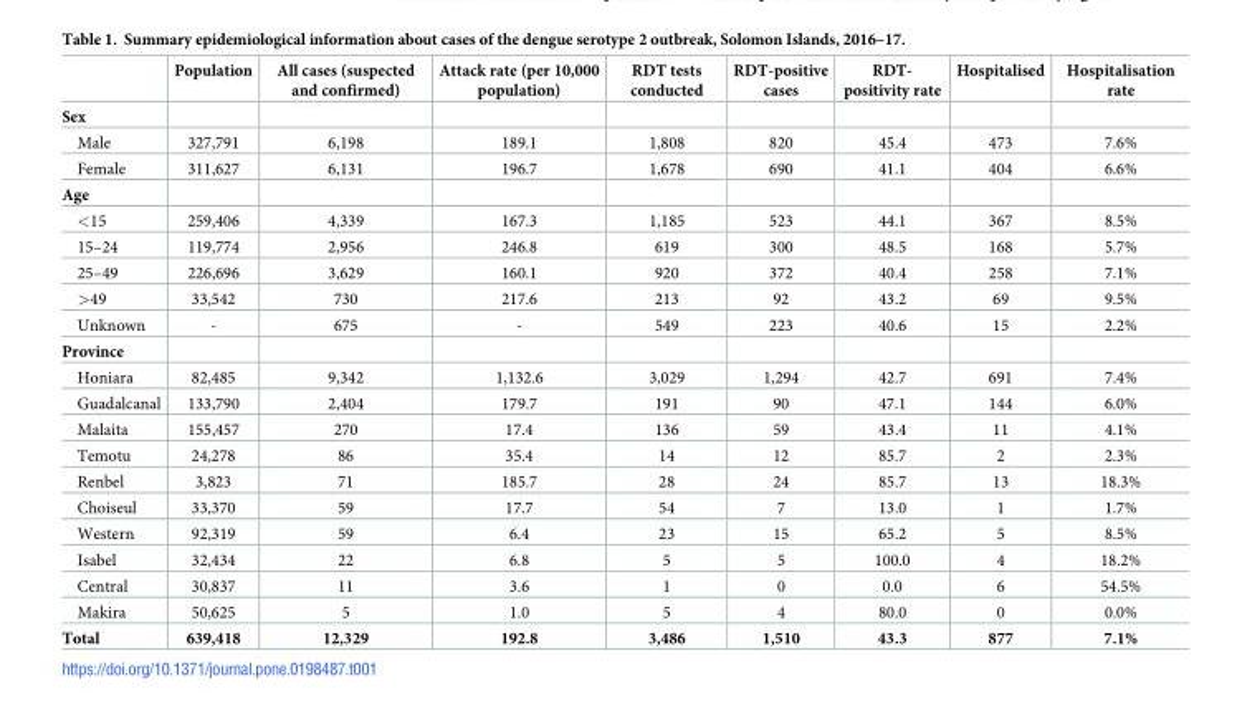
<table><thead><tr><td></td><td>Population</td><td>All cases (suspected and confirmed)</td><td>Attack rate (per 10,000 population)</td><td>RDT tests conducted</td><td>RDT-positive cases</td><td>RDT- positivity rate</td><td>Hospitalised</td><td>Hospitalisation rate</td></tr></thead><tbody><tr><td colspan="9">Sex</td></tr><tr><td>Male</td><td>327,791</td><td>6,198</td><td>189.1</td><td>1,808</td><td>820</td><td>45.4</td><td>473</td><td>7.6%</td></tr><tr><td>Female</td><td>311,627</td><td>6,131</td><td>196.7</td><td>1,678</td><td>690</td><td>41.1</td><td>404</td><td>6.6%</td></tr><tr><td colspan="9">Age</td></tr><tr><td>&lt;15</td><td>259,406</td><td>4,339</td><td>167.3</td><td>1,185</td><td>523</td><td>44.1</td><td>367</td><td>8.5%</td></tr><tr><td>15–24</td><td>119,774</td><td>2,956</td><td>246.8</td><td>619</td><td>300</td><td>48.5</td><td>168</td><td>5.7%</td></tr><tr><td>25–49</td><td>226,696</td><td>3,629</td><td>160.1</td><td>920</td><td>372</td><td>40.4</td><td>258</td><td>7.1%</td></tr><tr><td>&gt;49</td><td>33,542</td><td>730</td><td>217.6</td><td>213</td><td>92</td><td>43.2</td><td>69</td><td>9.5%</td></tr><tr><td>Unknown</td><td>-</td><td>675</td><td>-</td><td>549</td><td>223</td><td>40.6</td><td>15</td><td>2.2%</td></tr><tr><td colspan="9">Province</td></tr><tr><td>Honiara</td><td>82,485</td><td>9,342</td><td>1,132.6</td><td>3,029</td><td>1,294</td><td>42.7</td><td>691</td><td>7.4%</td></tr><tr><td>Guadalcanal</td><td>133,790</td><td>2,404</td><td>179.7</td><td>191</td><td>90</td><td>47.1</td><td>144</td><td>6.0%</td></tr><tr><td>Malaita</td><td>155,457</td><td>270</td><td>17.4</td><td>136</td><td>59</td><td>43.4</td><td>11</td><td>4.1%</td></tr><tr><td>Temotu</td><td>24,278</td><td>86</td><td>35.4</td><td>14</td><td>12</td><td>85.7</td><td>2</td><td>2.3%</td></tr><tr><td>Renbel</td><td>3,823</td><td>71</td><td>185.7</td><td>28</td><td>24</td><td>85.7</td><td>13</td><td>18.3%</td></tr><tr><td>Choiseul</td><td>33,370</td><td>59</td><td>17.7</td><td>54</td><td>7</td><td>13.0</td><td>1</td><td>1.7%</td></tr><tr><td>Western</td><td>92,319</td><td>59</td><td>6.4</td><td>23</td><td>15</td><td>65.2</td><td>5</td><td>8.5%</td></tr><tr><td>Isabel</td><td>32,434</td><td>22</td><td>6.8</td><td>5</td><td>5</td><td>100.0</td><td>4</td><td>18.2%</td></tr><tr><td>Central</td><td>30,837</td><td>11</td><td>3.6</td><td>1</td><td>0</td><td>0.0</td><td>6</td><td>54.5%</td></tr><tr><td>Makira</td><td>50,625</td><td>5</td><td>1.0</td><td>5</td><td>4</td><td>80.0</td><td>0</td><td>0.0%</td></tr><tr><td>Total</td><td>639,418</td><td>12,329</td><td>192.8</td><td>3,486</td><td>1,510</td><td>43.3</td><td>877</td><td>7.1%</td></tr></tbody></table>